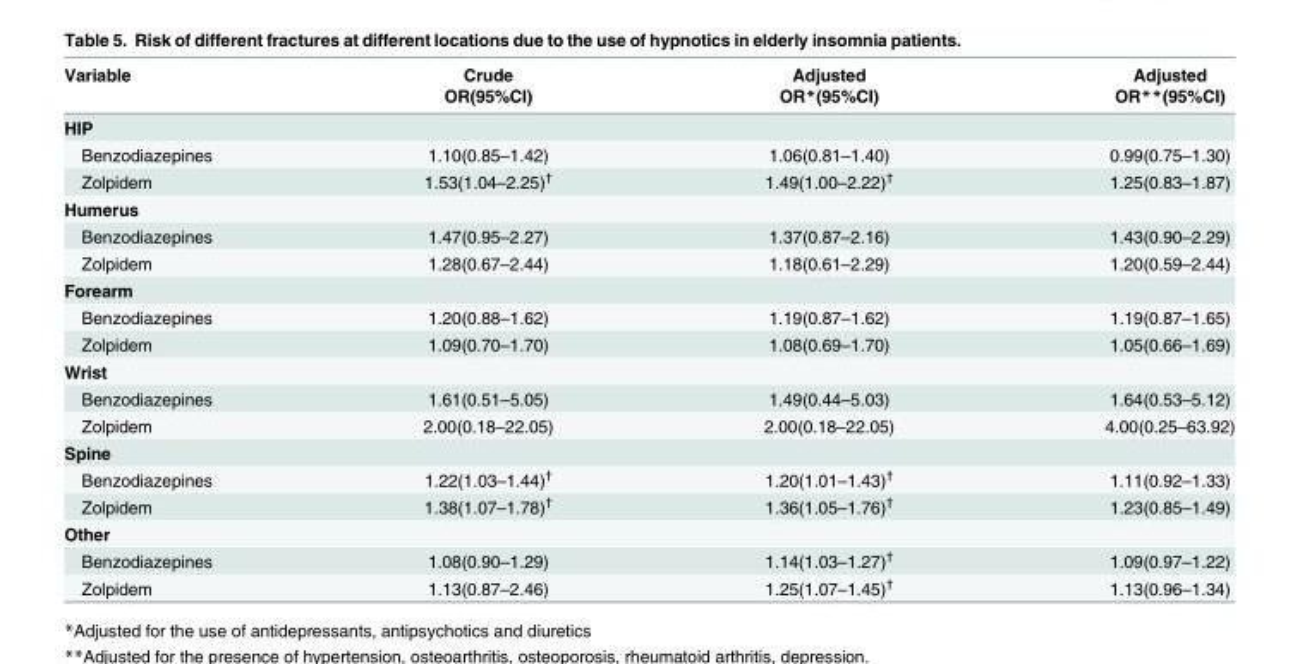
<table><thead><tr><td rowspan="2">Variable</td><td rowspan="2">Crude OR(95%CI)</td><td rowspan="2">Adjusted OR*(95%CI)</td><td rowspan="2">Adjusted OR**(95%CI)</td></tr><tr></tr></thead><tbody><tr><td colspan="4">HIP</td></tr><tr><td>Benzodiazepines</td><td>1.10(0.85–1.42)</td><td>1.06(0.81–1.40)</td><td>0.99(0.75–1.30)</td></tr><tr><td>Zolpidem</td><td>1.53(1.04–2.25)<sup>†</sup></td><td>1.49(1.00–2.22)<sup>†</sup></td><td>1.25(0.83–1.87)</td></tr><tr><td colspan="4">Humerus</td></tr><tr><td>Benzodiazepines</td><td>1.47(0.95–2.27)</td><td>1.37(0.87–2.16)</td><td>1.43(0.90–2.29)</td></tr><tr><td>Zolpidem</td><td>1.28(0.67–2.44)</td><td>1.18(0.61–2.29)</td><td>1.20(0.59–2.44)</td></tr><tr><td colspan="4">Forearm</td></tr><tr><td>Benzodiazepines</td><td>1.20(0.88–1.62)</td><td>1.19(0.87–1.62)</td><td>1.19(0.87–1.65)</td></tr><tr><td>Zolpidem</td><td>1.09(0.70–1.70)</td><td>1.08(0.69–1.70)</td><td>1.05(0.66–1.69)</td></tr><tr><td colspan="4">Wrist</td></tr><tr><td>Benzodiazepines</td><td>1.61(0.51–5.05)</td><td>1.49(0.44–5.03)</td><td>1.64(0.53–5.12)</td></tr><tr><td>Zolpidem</td><td>2.00(0.18–22.05)</td><td>2.00(0.18–22.05)</td><td>4.00(0.25–63.92)</td></tr><tr><td colspan="4">Spine</td></tr><tr><td>Benzodiazepines</td><td>1.22(1.03–1.44)<sup>†</sup></td><td>1.20(1.01–1.43)<sup>†</sup></td><td>1.11(0.92–1.33)</td></tr><tr><td>Zolpidem</td><td>1.38(1.07–1.78)<sup>†</sup></td><td>1.36(1.05–1.76)<sup>†</sup></td><td>1.23(0.85–1.49)</td></tr><tr><td colspan="4">Other</td></tr><tr><td>Benzodiazepines</td><td>1.08(0.90–1.29)</td><td>1.14(1.03–1.27)<sup>†</sup></td><td>1.09(0.97–1.22)</td></tr><tr><td>Zolpidem</td><td>1.13(0.87–2.46)</td><td>1.25(1.07–1.45)<sup>†</sup></td><td>1.13(0.96–1.34)</td></tr></tbody></table>